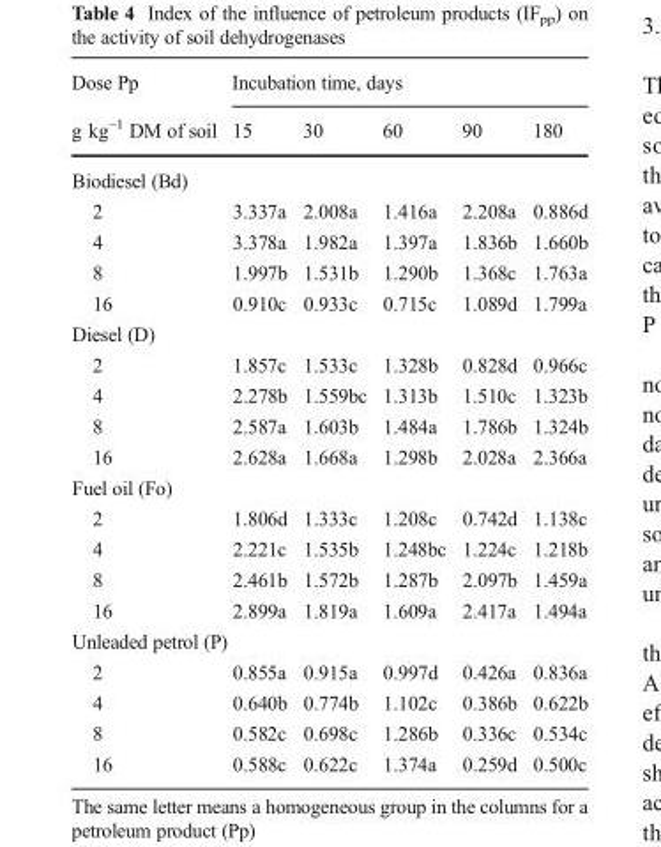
<table><thead><tr><td rowspan="2">Dose Pp g kg<sup>−1</sup> DM of soil</td><td colspan="5">Incubation time, days</td></tr><tr><td>15</td><td>30</td><td>60</td><td>90</td><td>180</td></tr></thead><tbody><tr><td colspan="6">Biodiesel (Bd)</td></tr><tr><td>2</td><td>3.337a</td><td>2.008a</td><td>1.416a</td><td>2.208a</td><td>0.886d</td></tr><tr><td>4</td><td>3.378a</td><td>1.982a</td><td>1.397a</td><td>1.836b</td><td>1.660b</td></tr><tr><td>8</td><td>1.997b</td><td>1.531b</td><td>1.290b</td><td>1.368c</td><td>1.763a</td></tr><tr><td>16</td><td>0.910c</td><td>0.933c</td><td>0.715c</td><td>1.089d</td><td>1.799a</td></tr><tr><td colspan="6">Diesel (D)</td></tr><tr><td>2</td><td>1.857c</td><td>1.533c</td><td>1.328b</td><td>0.828d</td><td>0.966c</td></tr><tr><td>4</td><td>2.278b</td><td>1.559bc</td><td>1.313b</td><td>1.510c</td><td>1.323b</td></tr><tr><td>8</td><td>2.587a</td><td>1.603b</td><td>1.484a</td><td>1.786b</td><td>1.324b</td></tr><tr><td>16</td><td>2.628a</td><td>1.668a</td><td>1.298b</td><td>2.028a</td><td>2.366a</td></tr><tr><td colspan="6">Fuel oil (Fo)</td></tr><tr><td>2</td><td>1.806d</td><td>1.333c</td><td>1.208c</td><td>0.742d</td><td>1.138c</td></tr><tr><td>4</td><td>2.221c</td><td>1.535b</td><td>1.248bc</td><td>1.224c</td><td>1.218b</td></tr><tr><td>8</td><td>2.461b</td><td>1.572b</td><td>1.287b</td><td>2.097b</td><td>1.459a</td></tr><tr><td>16</td><td>2.899a</td><td>1.819a</td><td>1.609a</td><td>2.417a</td><td>1.494a</td></tr><tr><td colspan="6">Unleaded petrol (P)</td></tr><tr><td>2</td><td>0.855a</td><td>0.915a</td><td>0.997d</td><td>0.426a</td><td>0.836a</td></tr><tr><td>4</td><td>0.640b</td><td>0.774b</td><td>1.102c</td><td>0.386b</td><td>0.622b</td></tr><tr><td>8</td><td>0.582c</td><td>0.698c</td><td>1.286b</td><td>0.336c</td><td>0.534c</td></tr><tr><td>16</td><td>0.588c</td><td>0.622c</td><td>1.374a</td><td>0.259d</td><td>0.500c</td></tr></tbody></table>